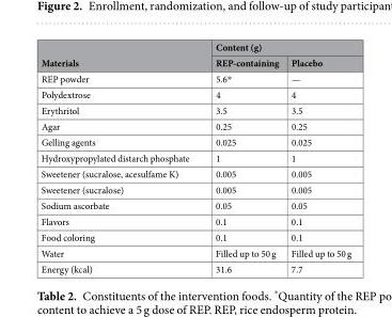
<table><thead><tr><td rowspan="2">Materials</td><td colspan="2">Content (g)</td></tr><tr><td>REP-containing</td><td>Placebo</td></tr></thead><tbody><tr><td>REP powder</td><td>5.6*</td><td>—</td></tr><tr><td>Polydextrose</td><td>4</td><td>4</td></tr><tr><td>Erythritol</td><td>3.5</td><td>3.5</td></tr><tr><td>Agar</td><td>0.25</td><td>0.25</td></tr><tr><td>Gelling agents</td><td>0.025</td><td>0.025</td></tr><tr><td>Hydroxypropylated distarch phosphate</td><td>1</td><td>1</td></tr><tr><td>Sweetener (sucralose, acesulfame K)</td><td>0.005</td><td>0.005</td></tr><tr><td>Sweetener (sucralose)</td><td>0.005</td><td>0.005</td></tr><tr><td>Sodium ascorbate</td><td>0.05</td><td>0.05</td></tr><tr><td>Flavors</td><td>0.1</td><td>0.1</td></tr><tr><td>Food coloring</td><td>0.1</td><td>0.1</td></tr><tr><td>Water</td><td>Filled up to 50 g</td><td>Filled up to 50 g</td></tr><tr><td>Energy (kcal)</td><td>31.6</td><td>7.7</td></tr></tbody></table>